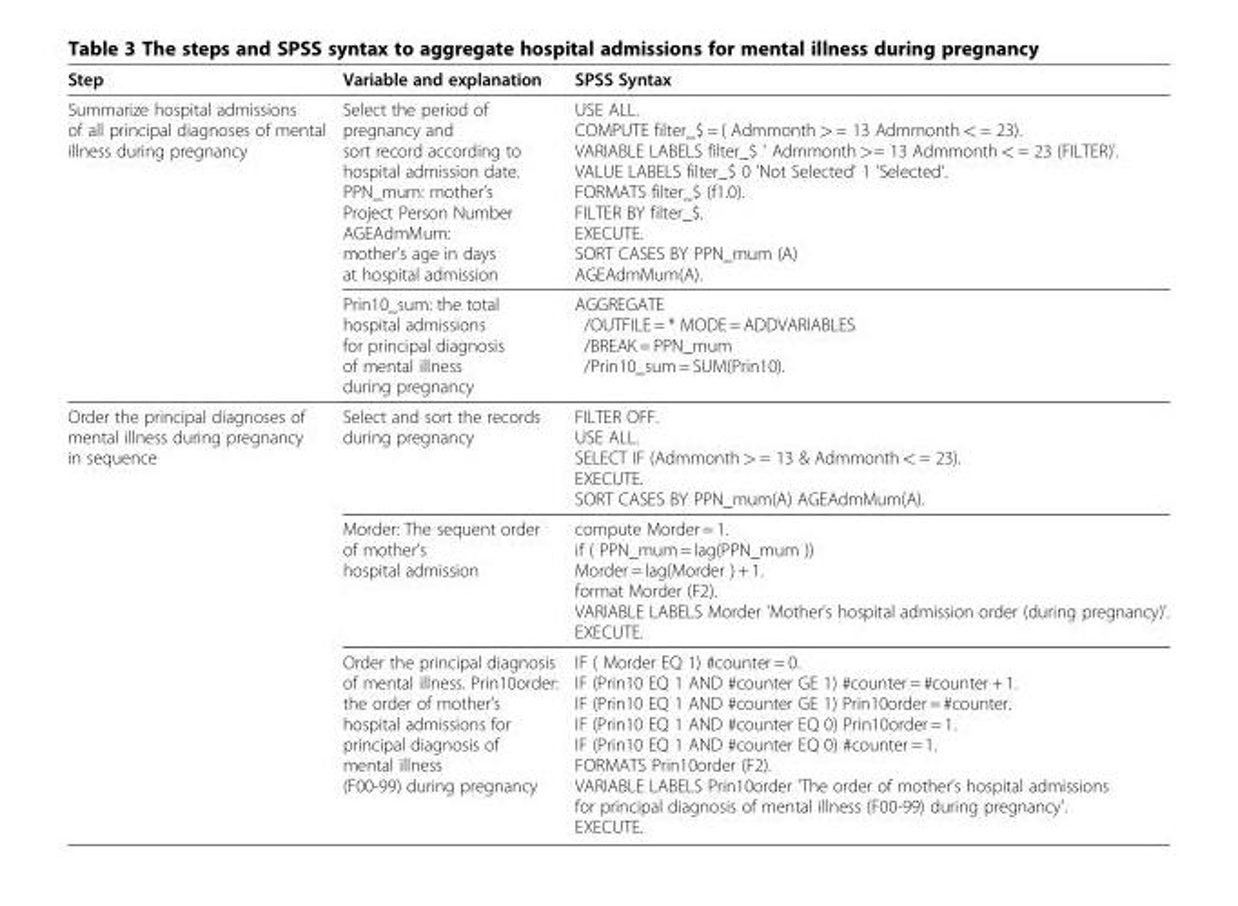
<table><thead><tr><td>Step</td><td>Variable and explanation</td><td>SPSS Syntax</td></tr></thead><tbody><tr><td rowspan="2">Summarize hospital admissions of all principal diagnoses of mental illness during pregnancy</td><td>Select the period of pregnancy and sort record according to hospital admission date. PPN_mum: mother’s Project Person Number AGEAdmMum: mother’s age in days at hospital admission</td><td>USE ALL. COMPUTE filter_$ = ( Admmonth &gt; = 13 Admmonth &lt; = 23). VARIABLE LABELS filter_$ &#x27; Admmonth &gt;= 13 Admmonth &lt; = 23 (FILTER)&#x27;. VALUE LABELS filter_$ 0 &#x27;Not Selected&#x27; 1 &#x27;Selected&#x27;. FORMATS filter_$ (f1.0). FILTER BY filter_$. EXECUTE. SORT CASES BY PPN_mum (A) AGEAdmMum(A).</td></tr><tr><td>Prin10_sum: the total hospital admissions for principal diagnosis of mental illness during pregnancy</td><td>AGGREGATE /OUTFILE = * MODE = ADDVARIABLES /BREAK = PPN_mum /Prin10_sum = SUM(Prin10).</td></tr><tr><td rowspan="3">Order the principal diagnoses of mental illness during pregnancy in sequence</td><td>Select and sort the records during pregnancy</td><td>FILTER OFF. USE ALL. SELECT IF (Admmonth &gt; = 13 &amp; Admmonth &lt; = 23). EXECUTE. SORT CASES BY PPN_mum(A) AGEAdmMum(A).</td></tr><tr><td>Morder: The sequent order of mother’s hospital admission</td><td>compute Morder = 1. if ( PPN_mum = lag(PPN_mum )) Morder = lag(Morder ) + 1. format Morder (F2). VARIABLE LABELS Morder &#x27;Mother’s hospital admission order (during pregnancy)&#x27;. EXECUTE.</td></tr><tr><td>Order the principal diagnosis of mental illness. Prin10order: the order of mother’s hospital admissions for principal diagnosis of mental illness (F00-99) during pregnancy</td><td>IF ( Morder EQ 1) #counter = 0. IF (Prin10 EQ 1 AND #counter GE 1) #counter = #counter + 1. IF (Prin10 EQ 1 AND #counter GE 1) Prin10order = #counter. IF (Prin10 EQ 1 AND #counter EQ 0) Prin10order = 1. IF (Prin10 EQ 1 AND #counter EQ 0) #counter = 1. FORMATS Prin10order (F2). VARIABLE LABELS Prin10order &#x27;The order of mother’s hospital admissions for principal diagnosis of mental illness (F00-99) during pregnancy&#x27;. EXECUTE.</td></tr></tbody></table>